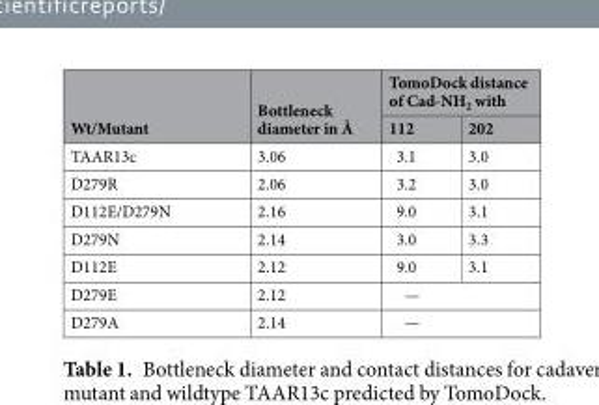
<table><thead><tr><td rowspan="2">Wt/Mutant</td><td rowspan="2">Bottleneck diameter in Å</td><td colspan="2">TomoDock distance of Cad-NH<sub>2</sub> with</td></tr><tr><td>112</td><td>202</td></tr></thead><tbody><tr><td>TAAR13c</td><td>3.06</td><td>3.1</td><td>3.0</td></tr><tr><td>D279R</td><td>2.06</td><td>3.2</td><td>3.0</td></tr><tr><td>D112E/D279N</td><td>2.16</td><td>9.0</td><td>3.1</td></tr><tr><td>D279N</td><td>2.14</td><td>3.0</td><td>3.3</td></tr><tr><td>D112E</td><td>2.12</td><td>9.0</td><td>3.1</td></tr><tr><td>D279E</td><td>2.12</td><td colspan="2">—</td></tr><tr><td>D279A</td><td>2.14</td><td colspan="2">—</td></tr></tbody></table>